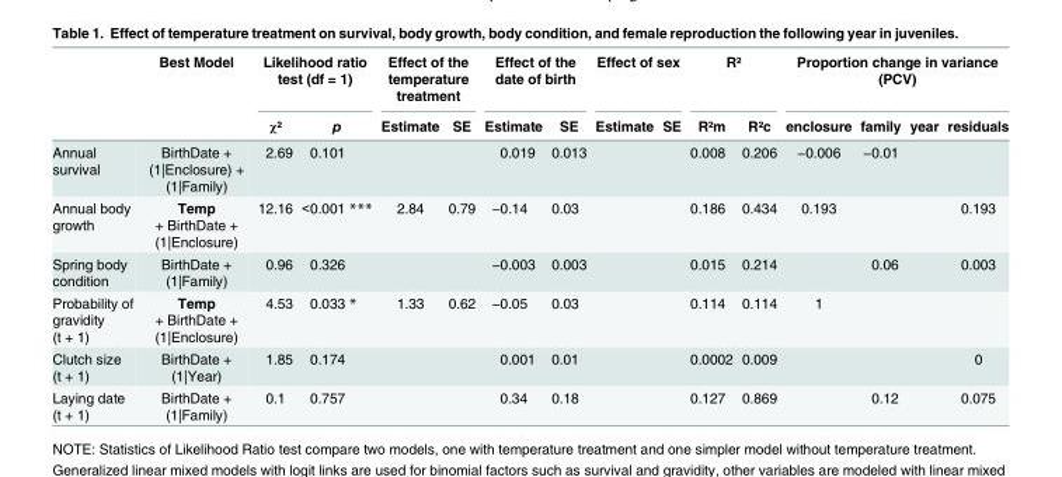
<table><thead><tr><td rowspan="2"></td><td rowspan="2">Best Model</td><td colspan="2">Likelihood ratio test (df = 1)</td><td colspan="2">Effect of the temperature treatment</td><td colspan="2">Effect of the date of birth</td><td colspan="2">Effect of sex</td><td colspan="2">R²</td><td colspan="4">Proportion change in variance (PCV)</td></tr><tr><td>χ²</td><td>p</td><td>Estimate</td><td>SE</td><td>Estimate</td><td>SE</td><td>Estimate</td><td>SE</td><td>R²m</td><td>R²c</td><td>enclosure</td><td>family</td><td>year</td><td>residuals</td></tr></thead><tbody><tr><td>Annual survival</td><td>BirthDate + (1|Enclosure) + (1|Family)</td><td>2.69</td><td>0.101</td><td></td><td></td><td>0.019</td><td>0.013</td><td></td><td></td><td>0.008</td><td>0.206</td><td>−0.006</td><td>−0.01</td><td></td><td></td></tr><tr><td>Annual body growth</td><td>Temp + BirthDate + (1|Enclosure)</td><td>12.16</td><td>&lt;0.001 ***</td><td>2.84</td><td>0.79</td><td>−0.14</td><td>0.03</td><td></td><td></td><td>0.186</td><td>0.434</td><td>0.193</td><td></td><td></td><td>0.193</td></tr><tr><td>Spring body condition</td><td>BirthDate + (1|Family)</td><td>0.96</td><td>0.326</td><td></td><td></td><td>−0.003</td><td>0.003</td><td></td><td></td><td>0.015</td><td>0.214</td><td></td><td>0.06</td><td></td><td>0.003</td></tr><tr><td>Probability of gravidity (t + 1)</td><td>Temp + BirthDate + (1|Enclosure)</td><td>4.53</td><td>0.033 *</td><td>1.33</td><td>0.62</td><td>−0.05</td><td>0.03</td><td></td><td></td><td>0.114</td><td>0.114</td><td>1</td><td></td><td></td><td></td></tr><tr><td>Clutch size (t + 1)</td><td>BirthDate + (1|Year)</td><td>1.85</td><td>0.174</td><td></td><td></td><td>0.001</td><td>0.01</td><td></td><td></td><td>0.0002</td><td>0.009</td><td></td><td></td><td></td><td>0</td></tr><tr><td>Laying date (t + 1)</td><td>BirthDate + (1|Family)</td><td>0.1</td><td>0.757</td><td></td><td></td><td>0.34</td><td>0.18</td><td></td><td></td><td>0.127</td><td>0.869</td><td></td><td>0.12</td><td></td><td>0.075</td></tr></tbody></table>